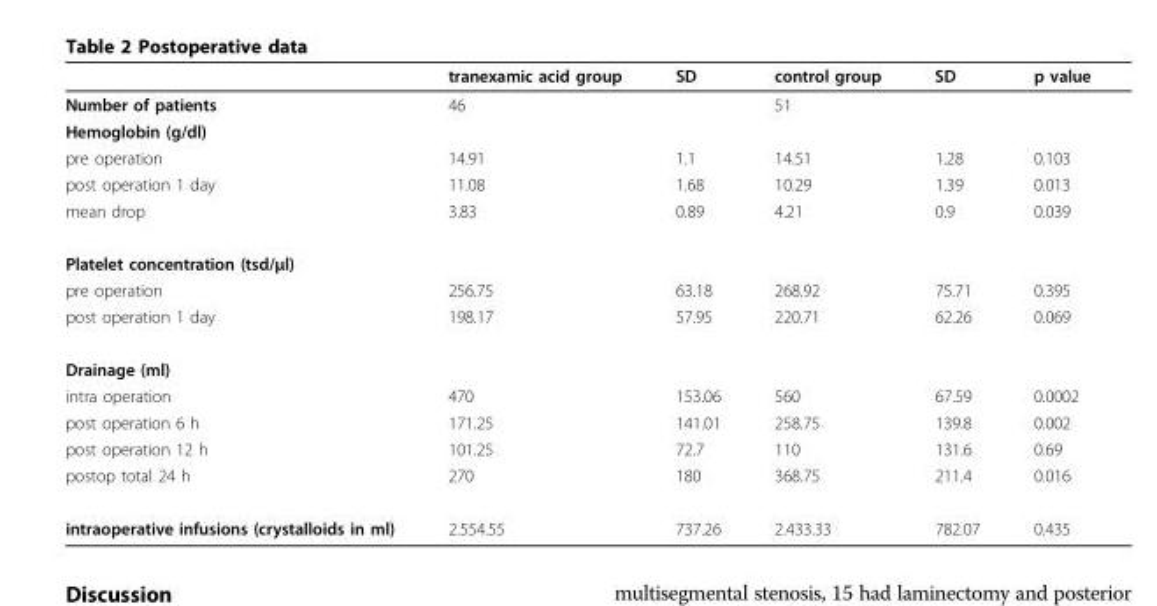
<table><thead><tr><td></td><td>tranexamic acid group</td><td>SD</td><td>control group</td><td>SD</td><td>p value</td></tr></thead><tbody><tr><td>Number of patients</td><td>46</td><td></td><td>51</td><td></td><td></td></tr><tr><td colspan="6">Hemoglobin (g/dl)</td></tr><tr><td>pre operation</td><td>14.91</td><td>1.1</td><td>14.51</td><td>1.28</td><td>0.103</td></tr><tr><td>post operation 1 day</td><td>11.08</td><td>1.68</td><td>10.29</td><td>1.39</td><td>0.013</td></tr><tr><td>mean drop</td><td>3.83</td><td>0.89</td><td>4.21</td><td>0.9</td><td>0.039</td></tr><tr><td colspan="6">Platelet concentration (tsd/μl)</td></tr><tr><td>pre operation</td><td>256.75</td><td>63.18</td><td>268.92</td><td>75.71</td><td>0.395</td></tr><tr><td>post operation 1 day</td><td>198.17</td><td>57.95</td><td>220.71</td><td>62.26</td><td>0.069</td></tr><tr><td colspan="6">Drainage (ml)</td></tr><tr><td>intra operation</td><td>470</td><td>153.06</td><td>560</td><td>67.59</td><td>0.0002</td></tr><tr><td>post operation 6 h</td><td>171.25</td><td>141.01</td><td>258.75</td><td>139.8</td><td>0.002</td></tr><tr><td>post operation 12 h</td><td>101.25</td><td>72.7</td><td>110</td><td>131.6</td><td>0.69</td></tr><tr><td>postop total 24 h</td><td>270</td><td>180</td><td>368.75</td><td>211.4</td><td>0.016</td></tr><tr><td>intraoperative infusions (crystalloids in ml)</td><td>2.554.55</td><td>737.26</td><td>2.433.33</td><td>782.07</td><td>0.435</td></tr></tbody></table>